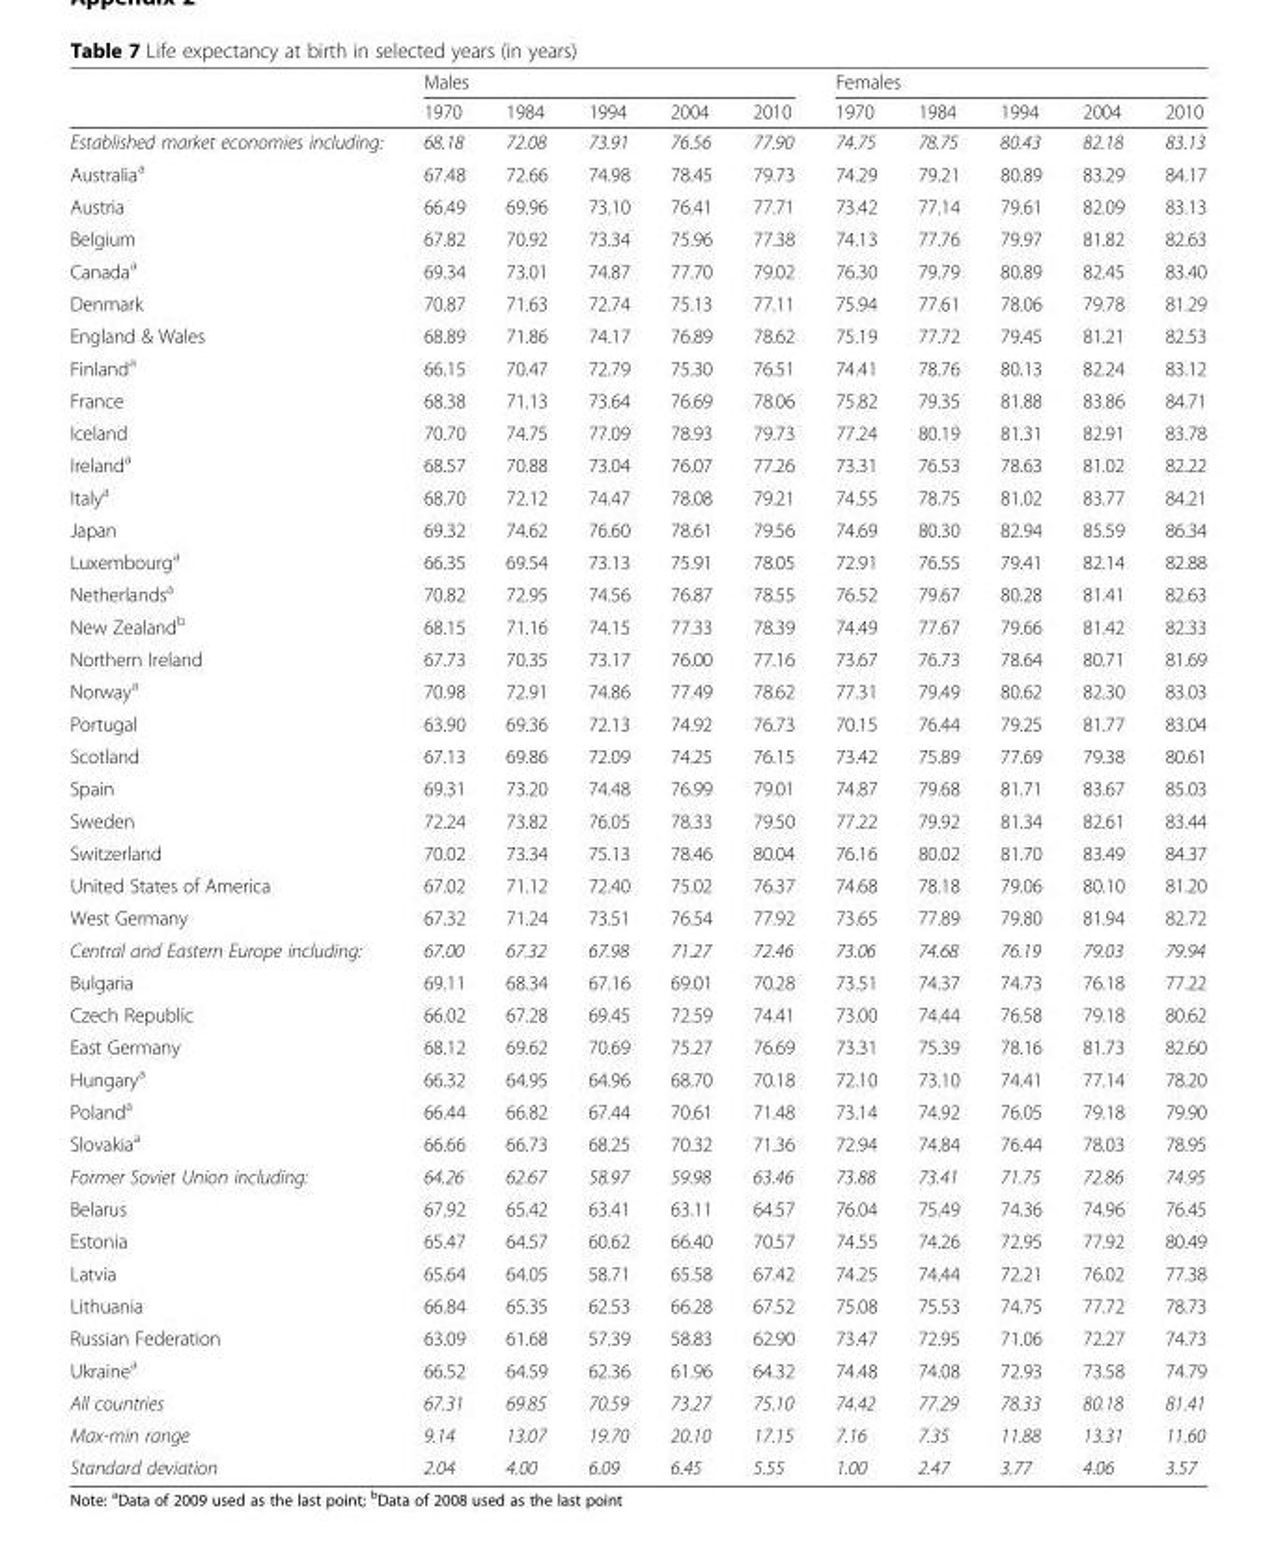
<table><thead><tr><td rowspan="2"></td><td colspan="5">Males</td><td colspan="5">Females</td></tr><tr><td>1970</td><td>1984</td><td>1994</td><td>2004</td><td>2010</td><td>1970</td><td>1984</td><td>1994</td><td>2004</td><td>2010</td></tr></thead><tbody><tr><td>Established market economies including:</td><td>68.18</td><td>72.08</td><td>73.91</td><td>76.56</td><td>77.90</td><td>74.75</td><td>78.75</td><td>80.43</td><td>82.18</td><td>83.13</td></tr><tr><td>Australia<sup>a</sup></td><td>67.48</td><td>72.66</td><td>74.98</td><td>78.45</td><td>79.73</td><td>74.29</td><td>79.21</td><td>80.89</td><td>83.29</td><td>84.17</td></tr><tr><td>Austria</td><td>66.49</td><td>69.96</td><td>73.10</td><td>76.41</td><td>77.71</td><td>73.42</td><td>77.14</td><td>79.61</td><td>82.09</td><td>83.13</td></tr><tr><td>Belgium</td><td>67.82</td><td>70.92</td><td>73.34</td><td>75.96</td><td>77.38</td><td>74.13</td><td>77.76</td><td>79.97</td><td>81.82</td><td>82.63</td></tr><tr><td>Canada<sup>a</sup></td><td>69.34</td><td>73.01</td><td>74.87</td><td>77.70</td><td>79.02</td><td>76.30</td><td>79.79</td><td>80.89</td><td>82.45</td><td>83.40</td></tr><tr><td>Denmark</td><td>70.87</td><td>71.63</td><td>72.74</td><td>75.13</td><td>77.11</td><td>75.94</td><td>77.61</td><td>78.06</td><td>79.78</td><td>81.29</td></tr><tr><td>England &amp; Wales</td><td>68.89</td><td>71.86</td><td>74.17</td><td>76.89</td><td>78.62</td><td>75.19</td><td>77.72</td><td>79.45</td><td>81.21</td><td>82.53</td></tr><tr><td>Finland<sup>a</sup></td><td>66.15</td><td>70.47</td><td>72.79</td><td>75.30</td><td>76.51</td><td>74.41</td><td>78.76</td><td>80.13</td><td>82.24</td><td>83.12</td></tr><tr><td>France</td><td>68.38</td><td>71.13</td><td>73.64</td><td>76.69</td><td>78.06</td><td>75.82</td><td>79.35</td><td>81.88</td><td>83.86</td><td>84.71</td></tr><tr><td>Iceland</td><td>70.70</td><td>74.75</td><td>77.09</td><td>78.93</td><td>79.73</td><td>77.24</td><td>80.19</td><td>81.31</td><td>82.91</td><td>83.78</td></tr><tr><td>Ireland<sup>a</sup></td><td>68.57</td><td>70.88</td><td>73.04</td><td>76.07</td><td>77.26</td><td>73.31</td><td>76.53</td><td>78.63</td><td>81.02</td><td>82.22</td></tr><tr><td>Italy<sup>a</sup></td><td>68.70</td><td>72.12</td><td>74.47</td><td>78.08</td><td>79.21</td><td>74.55</td><td>78.75</td><td>81.02</td><td>83.77</td><td>84.21</td></tr><tr><td>Japan</td><td>69.32</td><td>74.62</td><td>76.60</td><td>78.61</td><td>79.56</td><td>74.69</td><td>80.30</td><td>82.94</td><td>85.59</td><td>86.34</td></tr><tr><td>Luxembourg<sup>a</sup></td><td>66.35</td><td>69.54</td><td>73.13</td><td>75.91</td><td>78.05</td><td>72.91</td><td>76.55</td><td>79.41</td><td>82.14</td><td>82.88</td></tr><tr><td>Netherlands<sup>a</sup></td><td>70.82</td><td>72.95</td><td>74.56</td><td>76.87</td><td>78.55</td><td>76.52</td><td>79.67</td><td>80.28</td><td>81.41</td><td>82.63</td></tr><tr><td>New Zealand<sup>b</sup></td><td>68.15</td><td>71.16</td><td>74.15</td><td>77.33</td><td>78.39</td><td>74.49</td><td>77.67</td><td>79.66</td><td>81.42</td><td>82.33</td></tr><tr><td>Northern Ireland</td><td>67.73</td><td>70.35</td><td>73.17</td><td>76.00</td><td>77.16</td><td>73.67</td><td>76.73</td><td>78.64</td><td>80.71</td><td>81.69</td></tr><tr><td>Norway<sup>a</sup></td><td>70.98</td><td>72.91</td><td>74.86</td><td>77.49</td><td>78.62</td><td>77.31</td><td>79.49</td><td>80.62</td><td>82.30</td><td>83.03</td></tr><tr><td>Portugal</td><td>63.90</td><td>69.36</td><td>72.13</td><td>74.92</td><td>76.73</td><td>70.15</td><td>76.44</td><td>79.25</td><td>81.77</td><td>83.04</td></tr><tr><td>Scotland</td><td>67.13</td><td>69.86</td><td>72.09</td><td>74.25</td><td>76.15</td><td>73.42</td><td>75.89</td><td>77.69</td><td>79.38</td><td>80.61</td></tr><tr><td>Spain</td><td>69.31</td><td>73.20</td><td>74.48</td><td>76.99</td><td>79.01</td><td>74.87</td><td>79.68</td><td>81.71</td><td>83.67</td><td>85.03</td></tr><tr><td>Sweden</td><td>72.24</td><td>73.82</td><td>76.05</td><td>78.33</td><td>79.50</td><td>77.22</td><td>79.92</td><td>81.34</td><td>82.61</td><td>83.44</td></tr><tr><td>Switzerland</td><td>70.02</td><td>73.34</td><td>75.13</td><td>78.46</td><td>80.04</td><td>76.16</td><td>80.02</td><td>81.70</td><td>83.49</td><td>84.37</td></tr><tr><td>United States of America</td><td>67.02</td><td>71.12</td><td>72.40</td><td>75.02</td><td>76.37</td><td>74.68</td><td>78.18</td><td>79.06</td><td>80.10</td><td>81.20</td></tr><tr><td>West Germany</td><td>67.32</td><td>71.24</td><td>73.51</td><td>76.54</td><td>77.92</td><td>73.65</td><td>77.89</td><td>79.80</td><td>81.94</td><td>82.72</td></tr><tr><td>Central and Eastern Europe including:</td><td>67.00</td><td>67.32</td><td>67.98</td><td>71.27</td><td>72.46</td><td>73.06</td><td>74.68</td><td>76.19</td><td>79.03</td><td>79.94</td></tr><tr><td>Bulgaria</td><td>69.11</td><td>68.34</td><td>67.16</td><td>69.01</td><td>70.28</td><td>73.51</td><td>74.37</td><td>74.73</td><td>76.18</td><td>77.22</td></tr><tr><td>Czech Republic</td><td>66.02</td><td>67.28</td><td>69.45</td><td>72.59</td><td>74.41</td><td>73.00</td><td>74.44</td><td>76.58</td><td>79.18</td><td>80.62</td></tr><tr><td>East Germany</td><td>68.12</td><td>69.62</td><td>70.69</td><td>75.27</td><td>76.69</td><td>73.31</td><td>75.39</td><td>78.16</td><td>81.73</td><td>82.60</td></tr><tr><td>Hungary<sup>a</sup></td><td>66.32</td><td>64.95</td><td>64.96</td><td>68.70</td><td>70.18</td><td>72.10</td><td>73.10</td><td>74.41</td><td>77.14</td><td>78.20</td></tr><tr><td>Poland<sup>a</sup></td><td>66.44</td><td>66.82</td><td>67.44</td><td>70.61</td><td>71.48</td><td>73.14</td><td>74.92</td><td>76.05</td><td>79.18</td><td>79.90</td></tr><tr><td>Slovakia<sup>a</sup></td><td>66.66</td><td>66.73</td><td>68.25</td><td>70.32</td><td>71.36</td><td>72.94</td><td>74.84</td><td>76.44</td><td>78.03</td><td>78.95</td></tr><tr><td>Former Soviet Union including:</td><td>64.26</td><td>62.67</td><td>58.97</td><td>59.98</td><td>63.46</td><td>73.88</td><td>73.41</td><td>71.75</td><td>72.86</td><td>74.95</td></tr><tr><td>Belarus</td><td>67.92</td><td>65.42</td><td>63.41</td><td>63.11</td><td>64.57</td><td>76.04</td><td>75.49</td><td>74.36</td><td>74.96</td><td>76.45</td></tr><tr><td>Estonia</td><td>65.47</td><td>64.57</td><td>60.62</td><td>66.40</td><td>70.57</td><td>74.55</td><td>74.26</td><td>72.95</td><td>77.92</td><td>80.49</td></tr><tr><td>Latvia</td><td>65.64</td><td>64.05</td><td>58.71</td><td>65.58</td><td>67.42</td><td>74.25</td><td>74.44</td><td>72.21</td><td>76.02</td><td>77.38</td></tr><tr><td>Lithuania</td><td>66.84</td><td>65.35</td><td>62.53</td><td>66.28</td><td>67.52</td><td>75.08</td><td>75.53</td><td>74.75</td><td>77.72</td><td>78.73</td></tr><tr><td>Russian Federation</td><td>63.09</td><td>61.68</td><td>57.39</td><td>58.83</td><td>62.90</td><td>73.47</td><td>72.95</td><td>71.06</td><td>72.27</td><td>74.73</td></tr><tr><td>Ukraine<sup>a</sup></td><td>66.52</td><td>64.59</td><td>62.36</td><td>61.96</td><td>64.32</td><td>74.48</td><td>74.08</td><td>72.93</td><td>73.58</td><td>74.79</td></tr><tr><td>All countries</td><td>67.31</td><td>69.85</td><td>70.59</td><td>73.27</td><td>75.10</td><td>74.42</td><td>77.29</td><td>78.33</td><td>80.18</td><td>81.41</td></tr><tr><td>Max-min range</td><td>9.14</td><td>13.07</td><td>19.70</td><td>20.10</td><td>17.15</td><td>7.16</td><td>7.35</td><td>11.88</td><td>13.31</td><td>11.60</td></tr><tr><td>Standard deviation</td><td>2.04</td><td>4.00</td><td>6.09</td><td>6.45</td><td>5.55</td><td>1.00</td><td>2.47</td><td>3.77</td><td>4.06</td><td>3.57</td></tr></tbody></table>